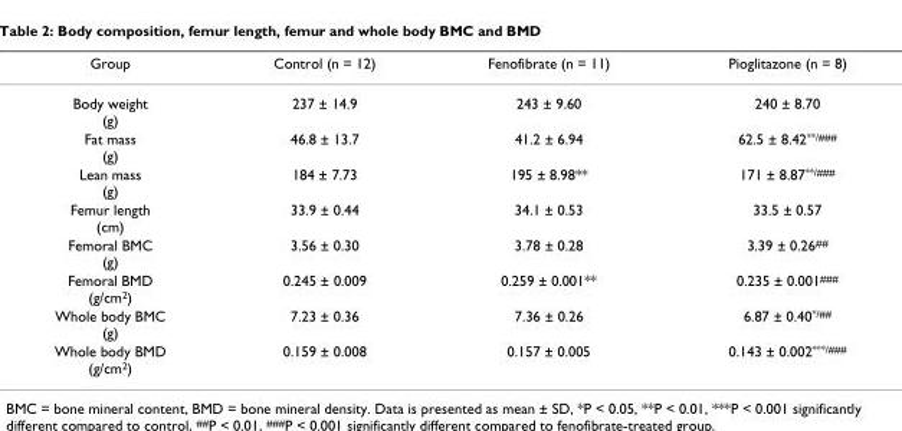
<table><thead><tr><td>Group</td><td>Control (n = 12)</td><td>Fenofibrate (n = 11)</td><td>Pioglitazone (n = 8)</td></tr></thead><tbody><tr><td>Body weight (g)</td><td>237 ± 14.9</td><td>243 ± 9.60</td><td>240 ± 8.70</td></tr><tr><td>Fat mass (g)</td><td>46.8 ± 13.7</td><td>41.2 ± 6.94</td><td>62.5 ± 8.42<sup>**/###</sup></td></tr><tr><td>Lean mass (g)</td><td>184 ± 7.73</td><td>195 ± 8.98**</td><td>171 ± 8.87<sup>**/###</sup></td></tr><tr><td>Femur length (cm)</td><td>33.9 ± 0.44</td><td>34.1 ± 0.53</td><td>33.5 ± 0.57</td></tr><tr><td>Femoral BMC (g)</td><td>3.56 ± 0.30</td><td>3.78 ± 0.28</td><td>3.39 ± 0.26<sup>##</sup></td></tr><tr><td>Femoral BMD (g/cm<sup>2</sup>)</td><td>0.245 ± 0.009</td><td>0.259 ± 0.001**</td><td>0.235 ± 0.001<sup>###</sup></td></tr><tr><td>Whole body BMC (g)</td><td>7.23 ± 0.36</td><td>7.36 ± 0.26</td><td>6.87 ± 0.40<sup>*/##</sup></td></tr><tr><td>Whole body BMD (g/cm<sup>2</sup>)</td><td>0.159 ± 0.008</td><td>0.157 ± 0.005</td><td>0.143 ± 0.002<sup>***/###</sup></td></tr></tbody></table>